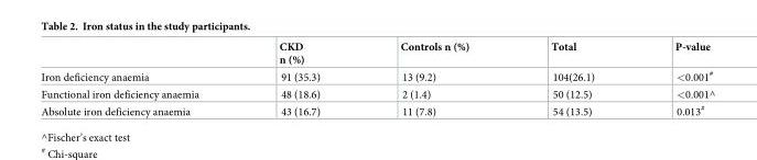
<table><thead><tr><td></td><td>CKD n (%)</td><td>Controls n (%)</td><td>Total</td><td>P-value</td></tr></thead><tbody><tr><td>Iron deficiency anaemia</td><td>91 (35.3)</td><td>13 (9.2)</td><td>104(26.1)</td><td>&lt;0.001<sup>#</sup></td></tr><tr><td>Functional iron deficiency anaemia</td><td>48 (18.6)</td><td>2 (1.4)</td><td>50 (12.5)</td><td>&lt;0.001^</td></tr><tr><td>Absolute iron deficiency anaemia</td><td>43 (16.7)</td><td>11 (7.8)</td><td>54 (13.5)</td><td>0.013<sup>#</sup></td></tr></tbody></table>